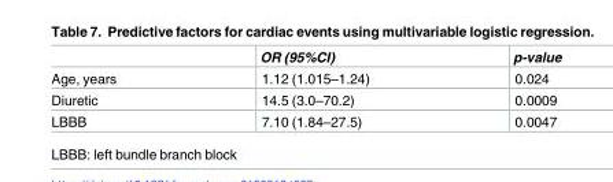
<table><thead><tr><td></td><td>OR (95%CI)</td><td>p-value</td></tr></thead><tbody><tr><td>Age, years</td><td>1.12 (1.015–1.24)</td><td>0.024</td></tr><tr><td>Diuretic</td><td>14.5 (3.0–70.2)</td><td>0.0009</td></tr><tr><td>LBBB</td><td>7.10 (1.84–27.5)</td><td>0.0047</td></tr></tbody></table>